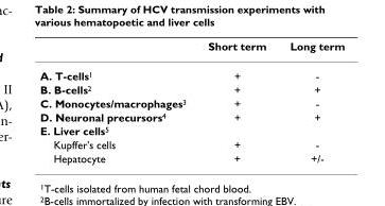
<table><thead><tr><td></td><td>Short term</td><td>Long term</td></tr></thead><tbody><tr><td>A. T-cells<sup>1</sup></td><td>+</td><td>-</td></tr><tr><td>B. B-cells<sup>2</sup></td><td>+</td><td>+</td></tr><tr><td>C. Monocytes/macrophages<sup>3</sup></td><td>+</td><td>-</td></tr><tr><td>D. Neuronal precursors<sup>4</sup></td><td>+</td><td>+</td></tr><tr><td colspan="3">E. Liver cells<sup>5</sup></td></tr><tr><td>Kupffer&#x27;s cells</td><td>+</td><td>-</td></tr><tr><td>Hepatocyte</td><td>+</td><td>+/-</td></tr></tbody></table>